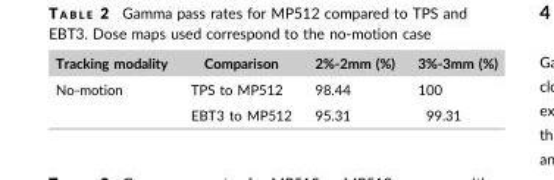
<table><thead><tr><td>Tracking modality</td><td>Comparison</td><td>2%-2mm (%)</td><td>3%-3mm (%)</td></tr></thead><tbody><tr><td rowspan="2">No-motion</td><td>TPS to MP512</td><td>98.44</td><td>100</td></tr><tr><td>EBT3 to MP512</td><td>95.31</td><td>99.31</td></tr></tbody></table>